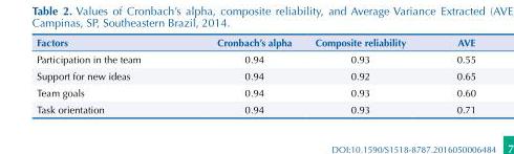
<table><thead><tr><td>Factors</td><td>Cronbach’s alpha</td><td>Composite reliability</td><td>AVE</td></tr></thead><tbody><tr><td>Participation in the team</td><td>0.94</td><td>0.93</td><td>0.55</td></tr><tr><td>Support for new ideas</td><td>0.94</td><td>0.92</td><td>0.65</td></tr><tr><td>Team goals</td><td>0.94</td><td>0.93</td><td>0.60</td></tr><tr><td>Task orientation</td><td>0.94</td><td>0.93</td><td>0.71</td></tr></tbody></table>